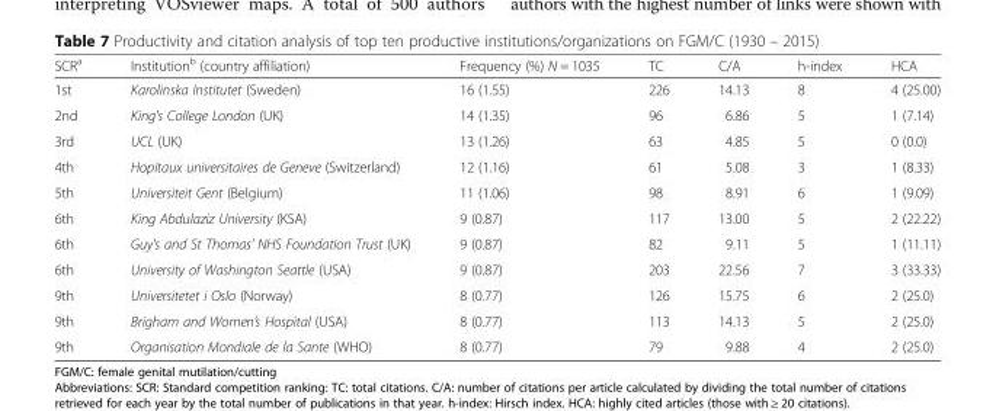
<table><thead><tr><td>SCR<sup>a</sup></td><td>Institution<sup>b</sup> (country affiliation)</td><td>Frequency (%) N = 1035</td><td>TC</td><td>C/A</td><td>h-index</td><td>HCA</td></tr></thead><tbody><tr><td>1st</td><td>Karolinska Institutet (Sweden)</td><td>16 (1.55)</td><td>226</td><td>14.13</td><td>8</td><td>4 (25.00)</td></tr><tr><td>2nd</td><td>King&#x27;s College London (UK)</td><td>14 (1.35)</td><td>96</td><td>6.86</td><td>5</td><td>1 (7.14)</td></tr><tr><td>3rd</td><td>UCL (UK)</td><td>13 (1.26)</td><td>63</td><td>4.85</td><td>5</td><td>0 (0.0)</td></tr><tr><td>4th</td><td>Hopitaux universitaires de Geneve (Switzerland)</td><td>12 (1.16)</td><td>61</td><td>5.08</td><td>3</td><td>1 (8.33)</td></tr><tr><td>5th</td><td>Universiteit Gent (Belgium)</td><td>11 (1.06)</td><td>98</td><td>8.91</td><td>6</td><td>1 (9.09)</td></tr><tr><td>6th</td><td>King Abdulaziz University (KSA)</td><td>9 (0.87)</td><td>117</td><td>13.00</td><td>5</td><td>2 (22.22)</td></tr><tr><td>6th</td><td>Guy&#x27;s and St Thomas&#x27; NHS Foundation Trust (UK)</td><td>9 (0.87)</td><td>82</td><td>9.11</td><td>5</td><td>1 (11.11)</td></tr><tr><td>6th</td><td>University of Washington Seattle (USA)</td><td>9 (0.87)</td><td>203</td><td>22.56</td><td>7</td><td>3 (33.33)</td></tr><tr><td>9th</td><td>Universitetet i Oslo (Norway)</td><td>8 (0.77)</td><td>126</td><td>15.75</td><td>6</td><td>2 (25.0)</td></tr><tr><td>9th</td><td>Brigham and Women’s Hospital (USA)</td><td>8 (0.77)</td><td>113</td><td>14.13</td><td>5</td><td>2 (25.0)</td></tr><tr><td>9th</td><td>Organisation Mondiale de la Sante (WHO)</td><td>8 (0.77)</td><td>79</td><td>9.88</td><td>4</td><td>2 (25.0)</td></tr></tbody></table>